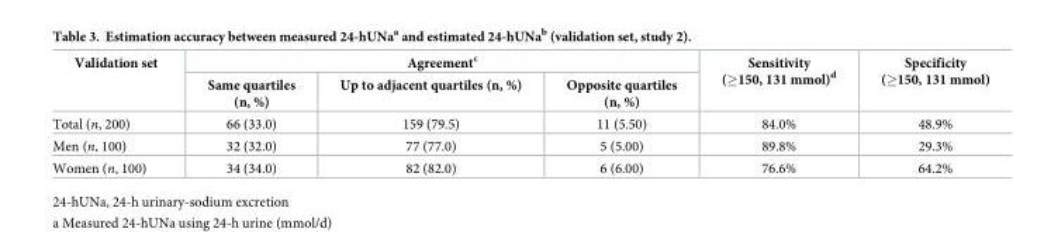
<table><thead><tr><td rowspan="2">Validation set</td><td colspan="3">Agreement<sup>c</sup></td><td rowspan="2">Sensitivity (≥150, 131 mmol)<sup>d</sup></td><td rowspan="2">Specificity (≥150, 131 mmol)</td></tr><tr><td>Same quartiles (n, %)</td><td>Up to adjacent quartiles (n, %)</td><td>Opposite quartiles (n, %)</td></tr></thead><tbody><tr><td>Total (n, 200)</td><td>66 (33.0)</td><td>159 (79.5)</td><td>11 (5.50)</td><td>84.0%</td><td>48.9%</td></tr><tr><td>Men (n, 100)</td><td>32 (32.0)</td><td>77 (77.0)</td><td>5 (5.00)</td><td>89.8%</td><td>29.3%</td></tr><tr><td>Women (n, 100)</td><td>34 (34.0)</td><td>82 (82.0)</td><td>6 (6.00)</td><td>76.6%</td><td>64.2%</td></tr></tbody></table>